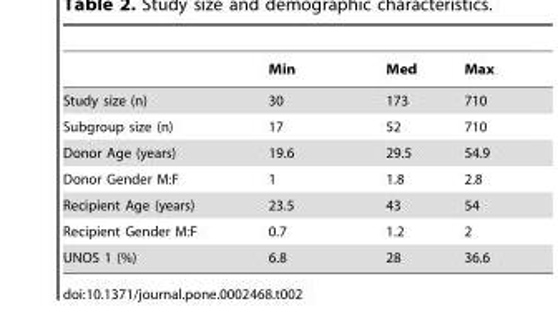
<table><thead><tr><td></td><td>Min</td><td>Med</td><td>Max</td></tr></thead><tbody><tr><td>Study size (n)</td><td>30</td><td>173</td><td>710</td></tr><tr><td>Subgroup size (n)</td><td>17</td><td>52</td><td>710</td></tr><tr><td>Donor Age (years)</td><td>19.6</td><td>29.5</td><td>54.9</td></tr><tr><td>Donor Gender M:F</td><td>1</td><td>1.8</td><td>2.8</td></tr><tr><td>Recipient Age (years)</td><td>23.5</td><td>43</td><td>54</td></tr><tr><td>Recipient Gender M:F</td><td>0.7</td><td>1.2</td><td>2</td></tr><tr><td>UNOS 1 (%)</td><td>6.8</td><td>28</td><td>36.6</td></tr></tbody></table>